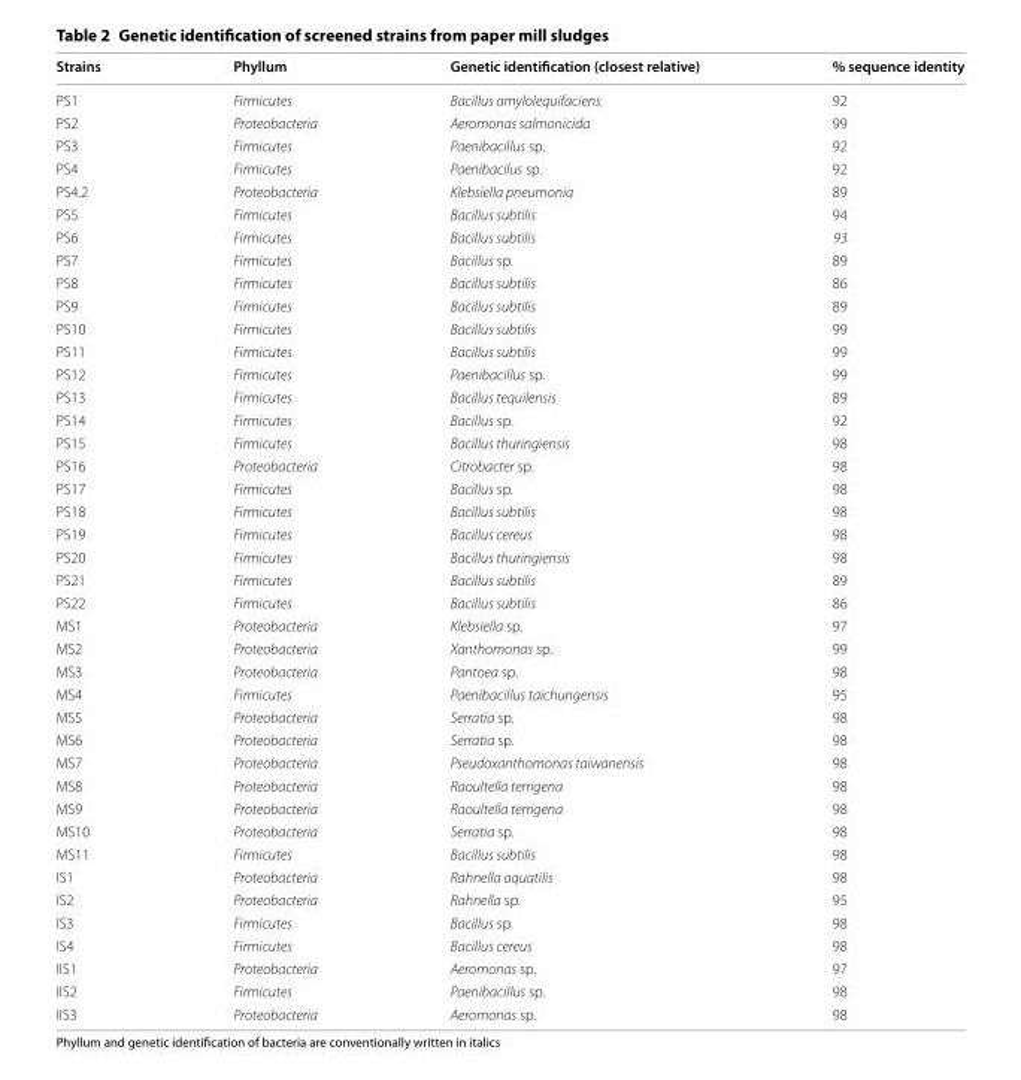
<table><thead><tr><td>Strains</td><td>Phyllum</td><td>Genetic identification (closest relative)</td><td>% sequence identity</td></tr></thead><tbody><tr><td>PS1</td><td>Firmicutes</td><td>Bacillus amylolequifaciens</td><td>92</td></tr><tr><td>PS2</td><td>Proteobacteria</td><td>Aeromonas salmonicida</td><td>99</td></tr><tr><td>PS3</td><td>Firmicutes</td><td>Paenibacillus sp.</td><td>92</td></tr><tr><td>PS4</td><td>Firmicutes</td><td>Paenibacilus sp.</td><td>92</td></tr><tr><td>PS4.2</td><td>Proteobacteria</td><td>Klebsiella pneumonia</td><td>89</td></tr><tr><td>PS5</td><td>Firmicutes</td><td>Bacillus subtilis</td><td>94</td></tr><tr><td>PS6</td><td>Firmicutes</td><td>Bacillus subtilis</td><td>93</td></tr><tr><td>PS7</td><td>Firmicutes</td><td>Bacillus sp.</td><td>89</td></tr><tr><td>PS8</td><td>Firmicutes</td><td>Bacillus subtilis</td><td>86</td></tr><tr><td>PS9</td><td>Firmicutes</td><td>Bacillus subtilis</td><td>89</td></tr><tr><td>PS10</td><td>Firmicutes</td><td>Bacillus subtilis</td><td>99</td></tr><tr><td>PS11</td><td>Firmicutes</td><td>Bacillus subtilis</td><td>99</td></tr><tr><td>PS12</td><td>Firmicutes</td><td>Paenibacillus sp.</td><td>99</td></tr><tr><td>PS13</td><td>Firmicutes</td><td>Bacillus tequilensis</td><td>89</td></tr><tr><td>PS14</td><td>Firmicutes</td><td>Bacillus sp.</td><td>92</td></tr><tr><td>PS15</td><td>Firmicutes</td><td>Bacillus thuringiensis</td><td>98</td></tr><tr><td>PS16</td><td>Proteobacteria</td><td>Citrobacter sp.</td><td>98</td></tr><tr><td>PS17</td><td>Firmicutes</td><td>Bacillus sp.</td><td>98</td></tr><tr><td>PS18</td><td>Firmicutes</td><td>Bacillus subtilis</td><td>98</td></tr><tr><td>PS19</td><td>Firmicutes</td><td>Bacillus cereus</td><td>98</td></tr><tr><td>PS20</td><td>Firmicutes</td><td>Bacillus thuringiensis</td><td>98</td></tr><tr><td>PS21</td><td>Firmicutes</td><td>Bacillus subtilis</td><td>89</td></tr><tr><td>PS22</td><td>Firmicutes</td><td>Bacillus subtilis</td><td>86</td></tr><tr><td>MS1</td><td>Proteobacteria</td><td>Klebsiella sp.</td><td>97</td></tr><tr><td>MS2</td><td>Proteobacteria</td><td>Xanthomonas sp.</td><td>99</td></tr><tr><td>MS3</td><td>Proteobacteria</td><td>Pantoea sp.</td><td>98</td></tr><tr><td>MS4</td><td>Firmicutes</td><td>Paenibacillus taichungensis</td><td>95</td></tr><tr><td>MS5</td><td>Proteobacteria</td><td>Serratia sp.</td><td>98</td></tr><tr><td>MS6</td><td>Proteobacteria</td><td>Serratia sp.</td><td>98</td></tr><tr><td>MS7</td><td>Proteobacteria</td><td>Pseudoxanthomonas taiwanensis</td><td>98</td></tr><tr><td>MS8</td><td>Proteobacteria</td><td>Raoultella terrigena</td><td>98</td></tr><tr><td>MS9</td><td>Proteobacteria</td><td>Raoultella terrigena</td><td>98</td></tr><tr><td>MS10</td><td>Proteobacteria</td><td>Serratia sp.</td><td>98</td></tr><tr><td>MS11</td><td>Firmicutes</td><td>Bacillus subtilis</td><td>98</td></tr><tr><td>IS1</td><td>Proteobacteria</td><td>Rahnella aquatilis</td><td>98</td></tr><tr><td>IS2</td><td>Proteobacteria</td><td>Rahnella sp.</td><td>95</td></tr><tr><td>IS3</td><td>Firmicutes</td><td>Bacillus sp.</td><td>98</td></tr><tr><td>IS4</td><td>Firmicutes</td><td>Bacillus cereus</td><td>98</td></tr><tr><td>IIS1</td><td>Proteobacteria</td><td>Aeromonas sp.</td><td>97</td></tr><tr><td>IIS2</td><td>Firmicutes</td><td>Paenibacillus sp.</td><td>98</td></tr><tr><td>IIS3</td><td>Proteobacteria</td><td>Aeromonas sp.</td><td>98</td></tr></tbody></table>